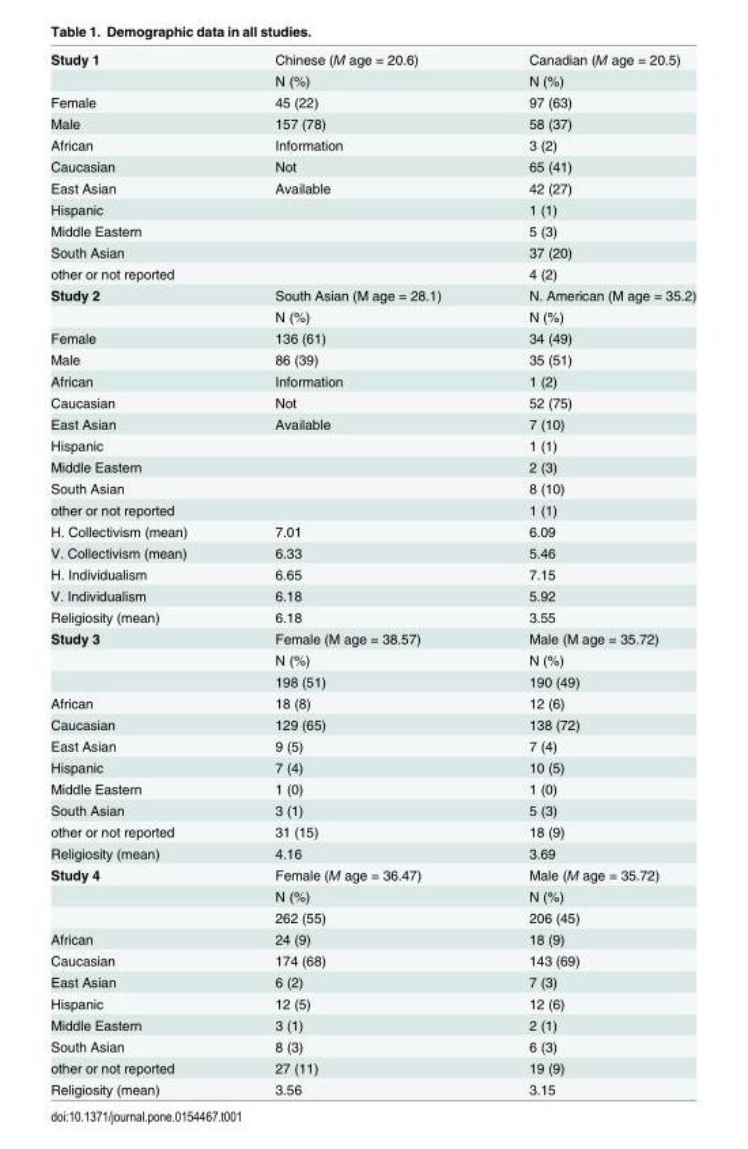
<table><tbody><tr><td rowspan="2">Study 1</td><td>Chinese (M age = 20.6)</td><td>Canadian (M age = 20.5)</td></tr><tr><td>N (%)</td><td>N (%)</td></tr><tr><td>Female</td><td>45 (22)</td><td>97 (63)</td></tr><tr><td>Male</td><td>157 (78)</td><td>58 (37)</td></tr><tr><td>African</td><td>Information</td><td>3 (2)</td></tr><tr><td>Caucasian</td><td>Not</td><td>65 (41)</td></tr><tr><td>East Asian</td><td>Available</td><td>42 (27)</td></tr><tr><td>Hispanic</td><td></td><td>1 (1)</td></tr><tr><td>Middle Eastern</td><td></td><td>5 (3)</td></tr><tr><td>South Asian</td><td></td><td>37 (20)</td></tr><tr><td>other or not reported</td><td></td><td>4 (2)</td></tr><tr><td rowspan="2">Study 2</td><td>South Asian (M age = 28.1)</td><td>N. American (M age = 35.2)</td></tr><tr><td>N (%)</td><td>N (%)</td></tr><tr><td>Female</td><td>136 (61)</td><td>34 (49)</td></tr><tr><td>Male</td><td>86 (39)</td><td>35 (51)</td></tr><tr><td>African</td><td>Information</td><td>1 (2)</td></tr><tr><td>Caucasian</td><td>Not</td><td>52 (75)</td></tr><tr><td>East Asian</td><td>Available</td><td>7 (10)</td></tr><tr><td>Hispanic</td><td></td><td>1 (1)</td></tr><tr><td>Middle Eastern</td><td></td><td>2 (3)</td></tr><tr><td>South Asian</td><td></td><td>8 (10)</td></tr><tr><td>other or not reported</td><td></td><td>1 (1)</td></tr><tr><td>H. Collectivism (mean)</td><td>7.01</td><td>6.09</td></tr><tr><td>V. Collectivism (mean)</td><td>6.33</td><td>5.46</td></tr><tr><td>H. Individualism</td><td>6.65</td><td>7.15</td></tr><tr><td>V. Individualism</td><td>6.18</td><td>5.92</td></tr><tr><td>Religiosity (mean)</td><td>6.18</td><td>3.55</td></tr><tr><td rowspan="3">Study 3</td><td>Female (M age = 38.57)</td><td>Male (M age = 35.72)</td></tr><tr><td>N (%)</td><td>N (%)</td></tr><tr><td>198 (51)</td><td>190 (49)</td></tr><tr><td>African</td><td>18 (8)</td><td>12 (6)</td></tr><tr><td>Caucasian</td><td>129 (65)</td><td>138 (72)</td></tr><tr><td>East Asian</td><td>9 (5)</td><td>7 (4)</td></tr><tr><td>Hispanic</td><td>7 (4)</td><td>10 (5)</td></tr><tr><td>Middle Eastern</td><td>1 (0)</td><td>1 (0)</td></tr><tr><td>South Asian</td><td>3 (1)</td><td>5 (3)</td></tr><tr><td>other or not reported</td><td>31 (15)</td><td>18 (9)</td></tr><tr><td>Religiosity (mean)</td><td>4.16</td><td>3.69</td></tr><tr><td rowspan="3">Study 4</td><td>Female (M age = 36.47)</td><td>Male (M age = 35.72)</td></tr><tr><td>N (%)</td><td>N (%)</td></tr><tr><td>262 (55)</td><td>206 (45)</td></tr><tr><td>African</td><td>24 (9)</td><td>18 (9)</td></tr><tr><td>Caucasian</td><td>174 (68)</td><td>143 (69)</td></tr><tr><td>East Asian</td><td>6 (2)</td><td>7 (3)</td></tr><tr><td>Hispanic</td><td>12 (5)</td><td>12 (6)</td></tr><tr><td>Middle Eastern</td><td>3 (1)</td><td>2 (1)</td></tr><tr><td>South Asian</td><td>8 (3)</td><td>6 (3)</td></tr><tr><td>other or not reported</td><td>27 (11)</td><td>19 (9)</td></tr><tr><td>Religiosity (mean)</td><td>3.56</td><td>3.15</td></tr></tbody></table>